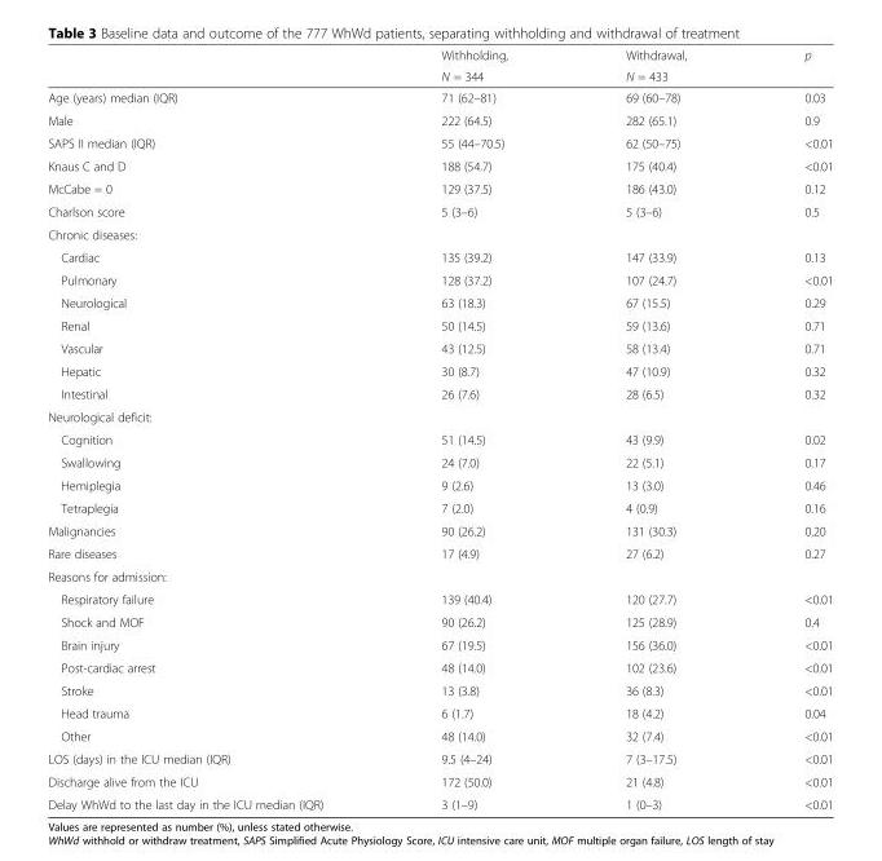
<table><thead><tr><td rowspan="2"></td><td rowspan="2">Withholding, N = 344</td><td rowspan="2">Withdrawal, N = 433</td><td rowspan="2">p</td></tr><tr></tr></thead><tbody><tr><td>Age (years) median (IQR)</td><td>71 (62–81)</td><td>69 (60–78)</td><td>0.03</td></tr><tr><td>Male</td><td>222 (64.5)</td><td>282 (65.1)</td><td>0.9</td></tr><tr><td>SAPS II median (IQR)</td><td>55 (44–70.5)</td><td>62 (50–75)</td><td>&lt;0.01</td></tr><tr><td>Knaus C and D</td><td>188 (54.7)</td><td>175 (40.4)</td><td>&lt;0.01</td></tr><tr><td>McCabe = 0</td><td>129 (37.5)</td><td>186 (43.0)</td><td>0.12</td></tr><tr><td>Charlson score</td><td>5 (3–6)</td><td>5 (3–6)</td><td>0.5</td></tr><tr><td colspan="4">Chronic diseases:</td></tr><tr><td>Cardiac</td><td>135 (39.2)</td><td>147 (33.9)</td><td>0.13</td></tr><tr><td>Pulmonary</td><td>128 (37.2)</td><td>107 (24.7)</td><td>&lt;0.01</td></tr><tr><td>Neurological</td><td>63 (18.3)</td><td>67 (15.5)</td><td>0.29</td></tr><tr><td>Renal</td><td>50 (14.5)</td><td>59 (13.6)</td><td>0.71</td></tr><tr><td>Vascular</td><td>43 (12.5)</td><td>58 (13.4)</td><td>0.71</td></tr><tr><td>Hepatic</td><td>30 (8.7)</td><td>47 (10.9)</td><td>0.32</td></tr><tr><td>Intestinal</td><td>26 (7.6)</td><td>28 (6.5)</td><td>0.32</td></tr><tr><td colspan="4">Neurological deficit:</td></tr><tr><td>Cognition</td><td>51 (14.5)</td><td>43 (9.9)</td><td>0.02</td></tr><tr><td>Swallowing</td><td>24 (7.0)</td><td>22 (5.1)</td><td>0.17</td></tr><tr><td>Hemiplegia</td><td>9 (2.6)</td><td>13 (3.0)</td><td>0.46</td></tr><tr><td>Tetraplegia</td><td>7 (2.0)</td><td>4 (0.9)</td><td>0.16</td></tr><tr><td>Malignancies</td><td>90 (26.2)</td><td>131 (30.3)</td><td>0.20</td></tr><tr><td>Rare diseases</td><td>17 (4.9)</td><td>27 (6.2)</td><td>0.27</td></tr><tr><td colspan="4">Reasons for admission:</td></tr><tr><td>Respiratory failure</td><td>139 (40.4)</td><td>120 (27.7)</td><td>&lt;0.01</td></tr><tr><td>Shock and MOF</td><td>90 (26.2)</td><td>125 (28.9)</td><td>0.4</td></tr><tr><td>Brain injury</td><td>67 (19.5)</td><td>156 (36.0)</td><td>&lt;0.01</td></tr><tr><td>Post-cardiac arrest</td><td>48 (14.0)</td><td>102 (23.6)</td><td>&lt;0.01</td></tr><tr><td>Stroke</td><td>13 (3.8)</td><td>36 (8.3)</td><td>&lt;0.01</td></tr><tr><td>Head trauma</td><td>6 (1.7)</td><td>18 (4.2)</td><td>0.04</td></tr><tr><td>Other</td><td>48 (14.0)</td><td>32 (7.4)</td><td>&lt;0.01</td></tr><tr><td>LOS (days) in the ICU median (IQR)</td><td>9.5 (4–24)</td><td>7 (3–17.5)</td><td>&lt;0.01</td></tr><tr><td>Discharge alive from the ICU</td><td>172 (50.0)</td><td>21 (4.8)</td><td>&lt;0.01</td></tr><tr><td>Delay WhWd to the last day in the ICU median (IQR)</td><td>3 (1–9)</td><td>1 (0–3)</td><td>&lt;0.01</td></tr></tbody></table>